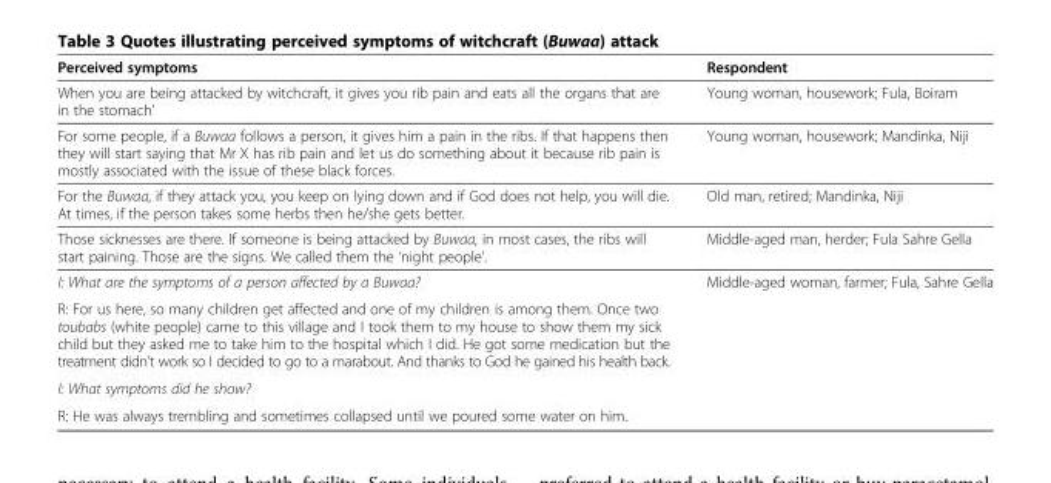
<table><thead><tr><td>Perceived symptoms</td><td>Respondent</td></tr></thead><tbody><tr><td>When you are being attacked by witchcraft, it gives you rib pain and eats all the organs that are in the stomach’</td><td>Young woman, housework; Fula, Boiram</td></tr><tr><td>For some people, if a Buwaa follows a person, it gives him a pain in the ribs. If that happens then they will start saying that Mr X has rib pain and let us do something about it because rib pain is mostly associated with the issue of these black forces.</td><td>Young woman, housework; Mandinka, Niji</td></tr><tr><td>For the Buwaa, if they attack you, you keep on lying down and if God does not help, you will die. At times, if the person takes some herbs then he/she gets better.</td><td>Old man, retired; Mandinka, Niji</td></tr><tr><td>Those sicknesses are there. If someone is being attacked by Buwaa, in most cases, the ribs will start paining. Those are the signs. We called them the ‘night people’.</td><td>Middle-aged man, herder; Fula Sahre Gella</td></tr><tr><td>I: What are the symptoms of a person affected by a Buwaa?</td><td rowspan="4">Middle-aged woman, farmer; Fula, Sahre Gella</td></tr><tr><td>R: For us here, so many children get affected and one of my children is among them. Once two toubabs (white people) came to this village and I took them to my house to show them my sick child but they asked me to take him to the hospital which I did. He got some medication but the treatment didn’t work so I decided to go to a marabout. And thanks to God he gained his health back.</td></tr><tr><td>I: What symptoms did he show?</td></tr><tr><td>R: He was always trembling and sometimes collapsed until we poured some water on him.</td></tr></tbody></table>